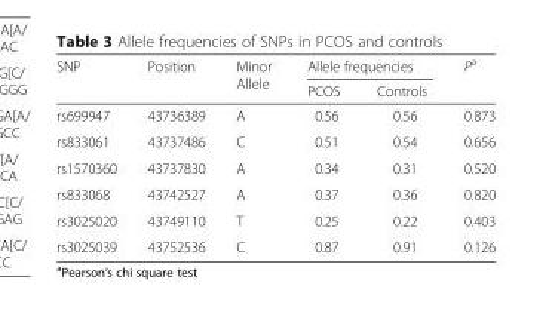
<table><thead><tr><td rowspan="2">SNP</td><td rowspan="2">Position</td><td rowspan="2">Minor Allele</td><td colspan="2">Allele frequencies</td><td rowspan="2">P<sup>a</sup></td></tr><tr><td>PCOS</td><td>Controls</td></tr></thead><tbody><tr><td>rs699947</td><td>43736389</td><td>A</td><td>0.56</td><td>0.56</td><td>0.873</td></tr><tr><td>rs833061</td><td>43737486</td><td>C</td><td>0.51</td><td>0.54</td><td>0.656</td></tr><tr><td>rs1570360</td><td>43737830</td><td>A</td><td>0.34</td><td>0.31</td><td>0.520</td></tr><tr><td>rs833068</td><td>43742527</td><td>A</td><td>0.37</td><td>0.36</td><td>0.820</td></tr><tr><td>rs3025020</td><td>43749110</td><td>T</td><td>0.25</td><td>0.22</td><td>0.403</td></tr><tr><td>rs3025039</td><td>43752536</td><td>C</td><td>0.87</td><td>0.91</td><td>0.126</td></tr></tbody></table>